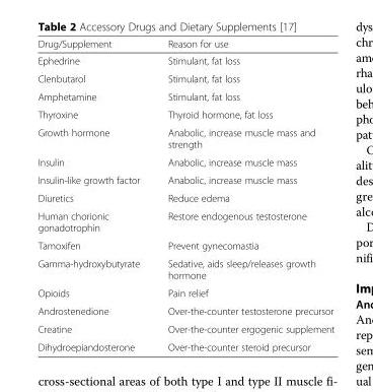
<table><thead><tr><td>Drug/Supplement</td><td>Reason for use</td></tr></thead><tbody><tr><td>Ephedrine</td><td>Stimulant, fat loss</td></tr><tr><td>Clenbutarol</td><td>Stimulant, fat loss</td></tr><tr><td>Amphetamine</td><td>Stimulant, fat loss</td></tr><tr><td>Thyroxine</td><td>Thyroid hormone, fat loss</td></tr><tr><td>Growth hormone</td><td>Anabolic, increase muscle mass and strength</td></tr><tr><td>Insulin</td><td>Anabolic, increase muscle mass</td></tr><tr><td>Insulin-like growth factor</td><td>Anabolic, increase muscle mass</td></tr><tr><td>Diuretics</td><td>Reduce edema</td></tr><tr><td>Human chorionic gonadotrophin</td><td>Restore endogenous testosterone</td></tr><tr><td>Tamoxifen</td><td>Prevent gynecomastia</td></tr><tr><td>Gamma-hydroxybutyrate</td><td>Sedative, aids sleep/releases growth hormone</td></tr><tr><td>Opioids</td><td>Pain relief</td></tr><tr><td>Androstenedione</td><td>Over-the-counter testosterone precursor</td></tr><tr><td>Creatine</td><td>Over-the-counter ergogenic supplement</td></tr><tr><td>Dihydroepiandosterone</td><td>Over-the-counter steroid precursor</td></tr></tbody></table>